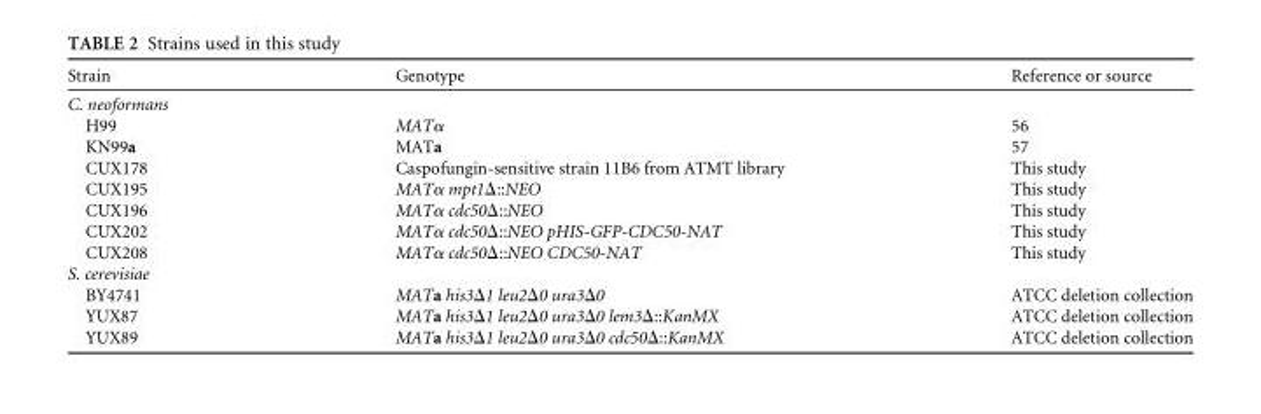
<table><thead><tr><td>Strain</td><td>Genotype</td><td>Reference or source</td></tr></thead><tbody><tr><td colspan="3">C. neoformans</td></tr><tr><td>H99</td><td>MATα</td><td>56</td></tr><tr><td>KN99a</td><td>MATa</td><td>57</td></tr><tr><td>CUX178</td><td>Caspofungin-sensitive strain 11B6 from ATMT library</td><td>This study</td></tr><tr><td>CUX195</td><td>MATα mpt1Δ::NEO</td><td>This study</td></tr><tr><td>CUX196</td><td>MATα cdc50Δ::NEO</td><td>This study</td></tr><tr><td>CUX202</td><td>MATα cdc50Δ::NEO pHIS-GFP-CDC50-NAT</td><td>This study</td></tr><tr><td>CUX208</td><td>MATα cdc50Δ::NEO CDC50-NAT</td><td>This study</td></tr><tr><td colspan="3">S. cerevisiae</td></tr><tr><td>BY4741</td><td>MATa his3Δ1 leu2Δ0 ura3Δ0</td><td>ATCC deletion collection</td></tr><tr><td>YUX87</td><td>MATa his3Δ1 leu2Δ0 ura3Δ0 lem3Δ::KanMX</td><td>ATCC deletion collection</td></tr><tr><td>YUX89</td><td>MATa his3Δ1 leu2Δ0 ura3Δ0 cdc50Δ::KanMX</td><td>ATCC deletion collection</td></tr></tbody></table>